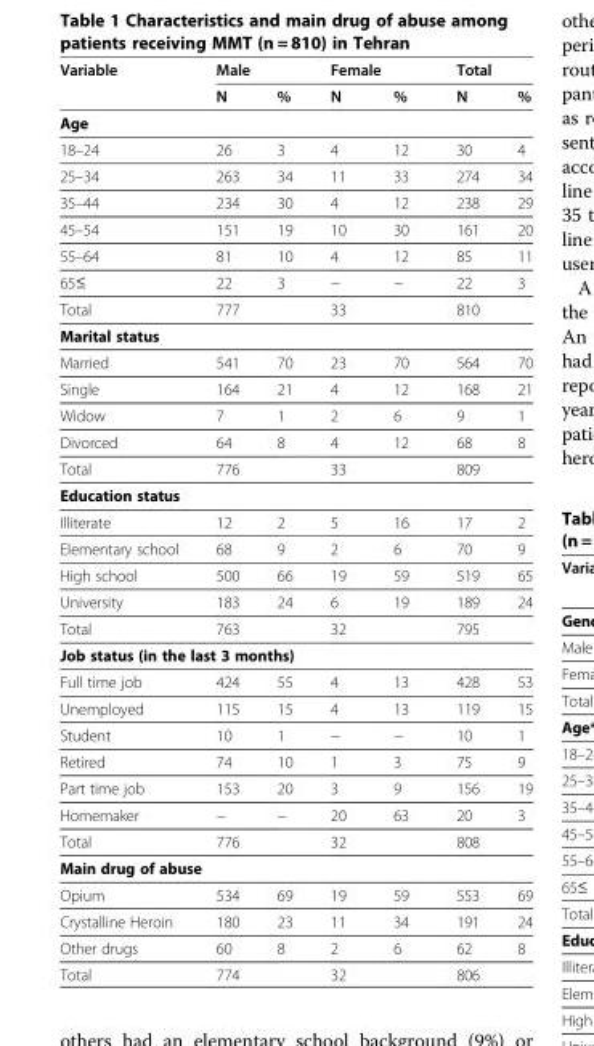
<table><thead><tr><td rowspan="2">Variable</td><td colspan="2">Male</td><td colspan="2">Female</td><td colspan="2">Total</td></tr><tr><td>N</td><td>%</td><td>N</td><td>%</td><td>N</td><td>%</td></tr></thead><tbody><tr><td colspan="7">Age</td></tr><tr><td>18–24</td><td>26</td><td>3</td><td>4</td><td>12</td><td>30</td><td>4</td></tr><tr><td>25–34</td><td>263</td><td>34</td><td>11</td><td>33</td><td>274</td><td>34</td></tr><tr><td>35–44</td><td>234</td><td>30</td><td>4</td><td>12</td><td>238</td><td>29</td></tr><tr><td>45–54</td><td>151</td><td>19</td><td>10</td><td>30</td><td>161</td><td>20</td></tr><tr><td>55–64</td><td>81</td><td>10</td><td>4</td><td>12</td><td>85</td><td>11</td></tr><tr><td>65≤</td><td>22</td><td>3</td><td>−</td><td>−</td><td>22</td><td>3</td></tr><tr><td>Total</td><td>777</td><td></td><td>33</td><td></td><td>810</td><td></td></tr><tr><td colspan="7">Marital status</td></tr><tr><td>Married</td><td>541</td><td>70</td><td>23</td><td>70</td><td>564</td><td>70</td></tr><tr><td>Single</td><td>164</td><td>21</td><td>4</td><td>12</td><td>168</td><td>21</td></tr><tr><td>Widow</td><td>7</td><td>1</td><td>2</td><td>6</td><td>9</td><td>1</td></tr><tr><td>Divorced</td><td>64</td><td>8</td><td>4</td><td>12</td><td>68</td><td>8</td></tr><tr><td>Total</td><td>776</td><td></td><td>33</td><td></td><td>809</td><td></td></tr><tr><td colspan="7">Education status</td></tr><tr><td>Illiterate</td><td>12</td><td>2</td><td>5</td><td>16</td><td>17</td><td>2</td></tr><tr><td>Elementary school</td><td>68</td><td>9</td><td>2</td><td>6</td><td>70</td><td>9</td></tr><tr><td>High school</td><td>500</td><td>66</td><td>19</td><td>59</td><td>519</td><td>65</td></tr><tr><td>University</td><td>183</td><td>24</td><td>6</td><td>19</td><td>189</td><td>24</td></tr><tr><td>Total</td><td>763</td><td></td><td>32</td><td></td><td>795</td><td></td></tr><tr><td colspan="7">Job status (in the last 3 months)</td></tr><tr><td>Full time job</td><td>424</td><td>55</td><td>4</td><td>13</td><td>428</td><td>53</td></tr><tr><td>Unemployed</td><td>115</td><td>15</td><td>4</td><td>13</td><td>119</td><td>15</td></tr><tr><td>Student</td><td>10</td><td>1</td><td>−</td><td>−</td><td>10</td><td>1</td></tr><tr><td>Retired</td><td>74</td><td>10</td><td>1</td><td>3</td><td>75</td><td>9</td></tr><tr><td>Part time job</td><td>153</td><td>20</td><td>3</td><td>9</td><td>156</td><td>19</td></tr><tr><td>Homemaker</td><td>−</td><td>−</td><td>20</td><td>63</td><td>20</td><td>3</td></tr><tr><td>Total</td><td>776</td><td></td><td>32</td><td></td><td>808</td><td></td></tr><tr><td colspan="7">Main drug of abuse</td></tr><tr><td>Opium</td><td>534</td><td>69</td><td>19</td><td>59</td><td>553</td><td>69</td></tr><tr><td>Crystalline Heroin</td><td>180</td><td>23</td><td>11</td><td>34</td><td>191</td><td>24</td></tr><tr><td>Other drugs</td><td>60</td><td>8</td><td>2</td><td>6</td><td>62</td><td>8</td></tr><tr><td>Total</td><td>774</td><td></td><td>32</td><td></td><td>806</td><td></td></tr></tbody></table>